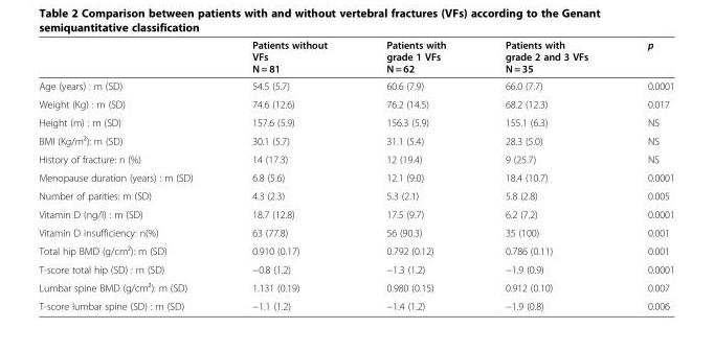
<table><thead><tr><td></td><td>Patients without VFs N = 81</td><td>Patients with grade 1 VFs N = 62</td><td>Patients with grade 2 and 3 VFs N = 35</td><td>p</td></tr></thead><tbody><tr><td>Age (years) : m (SD)</td><td>54.5 (5.7)</td><td>60.6 (7.9)</td><td>66.0 (7.7)</td><td>0.0001</td></tr><tr><td>Weight (Kg) : m (SD)</td><td>74.6 (12.6)</td><td>76.2 (14.5)</td><td>68.2 (12.3)</td><td>0.017</td></tr><tr><td>Height (m) : m (SD)</td><td>157.6 (5.9)</td><td>156.3 (5.9)</td><td>155.1 (6.3)</td><td>NS</td></tr><tr><td>BMI (Kg/m²): m (SD)</td><td>30.1 (5.7)</td><td>31.1 (5.4)</td><td>28.3 (5.0)</td><td>NS</td></tr><tr><td>History of fracture: n (%)</td><td>14 (17.3)</td><td>12 (19.4)</td><td>9 (25.7)</td><td>NS</td></tr><tr><td>Menopause duration (years) : m (SD)</td><td>6.8 (5.6)</td><td>12.1 (9.0)</td><td>18.4 (10.7)</td><td>0.0001</td></tr><tr><td>Number of parities: m (SD)</td><td>4.3 (2.3)</td><td>5.3 (2.1)</td><td>5.8 (2.8)</td><td>0.005</td></tr><tr><td>Vitamin D (ng/l) : m (SD)</td><td>18.7 (12.8)</td><td>17.5 (9.7)</td><td>6.2 (7.2)</td><td>0.0001</td></tr><tr><td>Vitamin D insufficiency: n(%)</td><td>63 (77.8)</td><td>56 (90.3)</td><td>35 (100)</td><td>0.001</td></tr><tr><td>Total hip BMD (g/cm²): m (SD)</td><td>0.910 (0.17)</td><td>0.792 (0.12)</td><td>0.786 (0.11)</td><td>0.001</td></tr><tr><td>T-score total hip (SD) : m (SD)</td><td>−0.8 (1.2)</td><td>−1.3 (1.2)</td><td>−1.9 (0.9)</td><td>0.0001</td></tr><tr><td>Lumbar spine BMD (g/cm²): m (SD)</td><td>1.131 (0.19)</td><td>0.980 (0.15)</td><td>0.912 (0.10)</td><td>0.007</td></tr><tr><td>T-score lumbar spine (SD) : m (SD)</td><td>−1.1 (1.2)</td><td>−1.4 (1.2)</td><td>−1.9 (0.8)</td><td>0.006</td></tr></tbody></table>